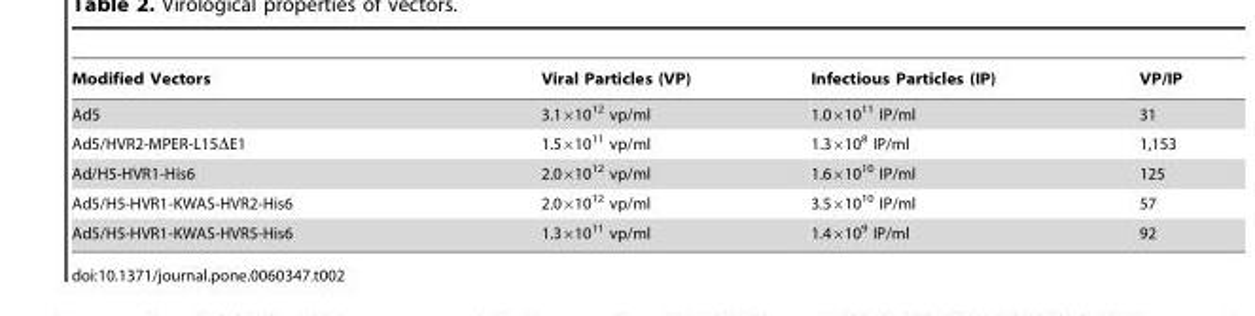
<table><thead><tr><td>Modified Vectors</td><td>Viral Particles (VP)</td><td>Infectious Particles (IP)</td><td>VP/IP</td></tr></thead><tbody><tr><td>Ad5</td><td>3.1×10<sup>12</sup> vp/ml</td><td>1.0×10<sup>11</sup> IP/ml</td><td>31</td></tr><tr><td>Ad5/HVR2-MPER-L15ΔE1</td><td>1.5×10<sup>11</sup> vp/ml</td><td>1.3×10<sup>8</sup> IP/ml</td><td>1,153</td></tr><tr><td>Ad/H5-HVR1-His6</td><td>2.0×10<sup>12</sup> vp/ml</td><td>1.6×10<sup>10</sup> IP/ml</td><td>125</td></tr><tr><td>Ad5/H5-HVR1-KWAS-HVR2-His6</td><td>2.0×10<sup>12</sup> vp/ml</td><td>3.5×10<sup>10</sup> IP/ml</td><td>57</td></tr><tr><td>Ad5/H5-HVR1-KWAS-HVR5-His6</td><td>1.3×10<sup>11</sup> vp/ml</td><td>1.4×10<sup>9</sup> IP/ml</td><td>92</td></tr></tbody></table>